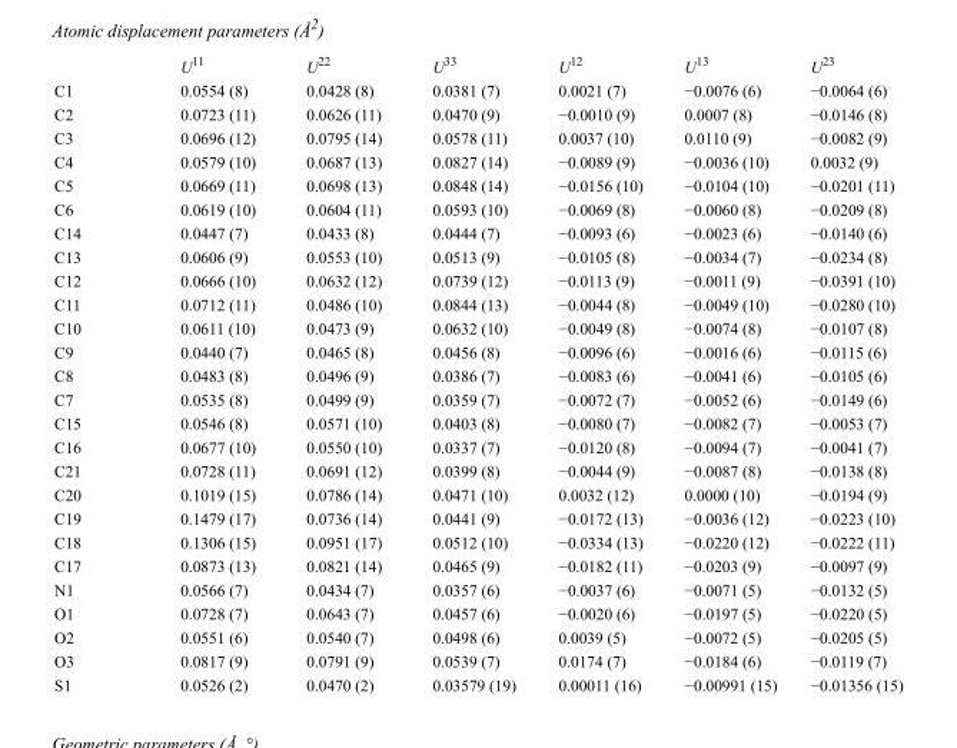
<table><thead><tr><td></td><td>U<sup>11</sup></td><td>U<sup>22</sup></td><td>U<sup>33</sup></td><td>U<sup>12</sup></td><td>U<sup>13</sup></td><td>U<sup>23</sup></td></tr></thead><tbody><tr><td>C1</td><td>0.0554 (8)</td><td>0.0428 (8)</td><td>0.0381 (7)</td><td>0.0021 (7)</td><td>−0.0076 (6)</td><td>−0.0064 (6)</td></tr><tr><td>C2</td><td>0.0723 (11)</td><td>0.0626 (11)</td><td>0.0470 (9)</td><td>−0.0010 (9)</td><td>0.0007 (8)</td><td>−0.0146 (8)</td></tr><tr><td>C3</td><td>0.0696 (12)</td><td>0.0795 (14)</td><td>0.0578 (11)</td><td>0.0037 (10)</td><td>0.0110 (9)</td><td>−0.0082 (9)</td></tr><tr><td>C4</td><td>0.0579 (10)</td><td>0.0687 (13)</td><td>0.0827 (14)</td><td>−0.0089 (9)</td><td>−0.0036 (10)</td><td>0.0032 (9)</td></tr><tr><td>C5</td><td>0.0669 (11)</td><td>0.0698 (13)</td><td>0.0848 (14)</td><td>−0.0156 (10)</td><td>−0.0104 (10)</td><td>−0.0201 (11)</td></tr><tr><td>C6</td><td>0.0619 (10)</td><td>0.0604 (11)</td><td>0.0593 (10)</td><td>−0.0069 (8)</td><td>−0.0060 (8)</td><td>−0.0209 (8)</td></tr><tr><td>C14</td><td>0.0447 (7)</td><td>0.0433 (8)</td><td>0.0444 (7)</td><td>−0.0093 (6)</td><td>−0.0023 (6)</td><td>−0.0140 (6)</td></tr><tr><td>C13</td><td>0.0606 (9)</td><td>0.0553 (10)</td><td>0.0513 (9)</td><td>−0.0105 (8)</td><td>−0.0034 (7)</td><td>−0.0234 (8)</td></tr><tr><td>C12</td><td>0.0666 (10)</td><td>0.0632 (12)</td><td>0.0739 (12)</td><td>−0.0113 (9)</td><td>−0.0011 (9)</td><td>−0.0391 (10)</td></tr><tr><td>C11</td><td>0.0712 (11)</td><td>0.0486 (10)</td><td>0.0844 (13)</td><td>−0.0044 (8)</td><td>−0.0049 (10)</td><td>−0.0280 (10)</td></tr><tr><td>C10</td><td>0.0611 (10)</td><td>0.0473 (9)</td><td>0.0632 (10)</td><td>−0.0049 (8)</td><td>−0.0074 (8)</td><td>−0.0107 (8)</td></tr><tr><td>C9</td><td>0.0440 (7)</td><td>0.0465 (8)</td><td>0.0456 (8)</td><td>−0.0096 (6)</td><td>−0.0016 (6)</td><td>−0.0115 (6)</td></tr><tr><td>C8</td><td>0.0483 (8)</td><td>0.0496 (9)</td><td>0.0386 (7)</td><td>−0.0083 (6)</td><td>−0.0041 (6)</td><td>−0.0105 (6)</td></tr><tr><td>C7</td><td>0.0535 (8)</td><td>0.0499 (9)</td><td>0.0359 (7)</td><td>−0.0072 (7)</td><td>−0.0052 (6)</td><td>−0.0149 (6)</td></tr><tr><td>C15</td><td>0.0546 (8)</td><td>0.0571 (10)</td><td>0.0403 (8)</td><td>−0.0080 (7)</td><td>−0.0082 (7)</td><td>−0.0053 (7)</td></tr><tr><td>C16</td><td>0.0677 (10)</td><td>0.0550 (10)</td><td>0.0337 (7)</td><td>−0.0120 (8)</td><td>−0.0094 (7)</td><td>−0.0041 (7)</td></tr><tr><td>C21</td><td>0.0728 (11)</td><td>0.0691 (12)</td><td>0.0399 (8)</td><td>−0.0044 (9)</td><td>−0.0087 (8)</td><td>−0.0138 (8)</td></tr><tr><td>C20</td><td>0.1019 (15)</td><td>0.0786 (14)</td><td>0.0471 (10)</td><td>0.0032 (12)</td><td>0.0000 (10)</td><td>−0.0194 (9)</td></tr><tr><td>C19</td><td>0.1479 (17)</td><td>0.0736 (14)</td><td>0.0441 (9)</td><td>−0.0172 (13)</td><td>−0.0036 (12)</td><td>−0.0223 (10)</td></tr><tr><td>C18</td><td>0.1306 (15)</td><td>0.0951 (17)</td><td>0.0512 (10)</td><td>−0.0334 (13)</td><td>−0.0220 (12)</td><td>−0.0222 (11)</td></tr><tr><td>C17</td><td>0.0873 (13)</td><td>0.0821 (14)</td><td>0.0465 (9)</td><td>−0.0182 (11)</td><td>−0.0203 (9)</td><td>−0.0097 (9)</td></tr><tr><td>N1</td><td>0.0566 (7)</td><td>0.0434 (7)</td><td>0.0357 (6)</td><td>−0.0037 (6)</td><td>−0.0071 (5)</td><td>−0.0132 (5)</td></tr><tr><td>O1</td><td>0.0728 (7)</td><td>0.0643 (7)</td><td>0.0457 (6)</td><td>−0.0020 (6)</td><td>−0.0197 (5)</td><td>−0.0220 (5)</td></tr><tr><td>O2</td><td>0.0551 (6)</td><td>0.0540 (7)</td><td>0.0498 (6)</td><td>0.0039 (5)</td><td>−0.0072 (5)</td><td>−0.0205 (5)</td></tr><tr><td>O3</td><td>0.0817 (9)</td><td>0.0791 (9)</td><td>0.0539 (7)</td><td>0.0174 (7)</td><td>−0.0184 (6)</td><td>−0.0119 (7)</td></tr><tr><td>S1</td><td>0.0526 (2)</td><td>0.0470 (2)</td><td>0.03579 (19)</td><td>0.00011 (16)</td><td>−0.00991 (15)</td><td>−0.01356 (15)</td></tr></tbody></table>